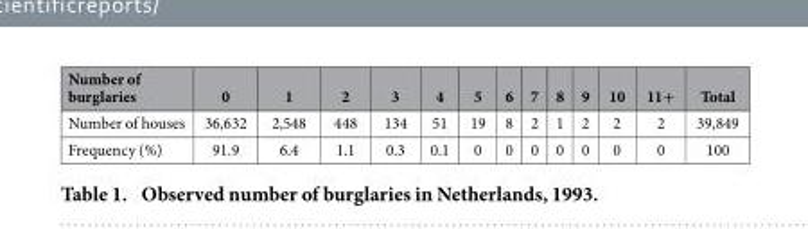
<table><thead><tr><td>Number of burglaries</td><td>0</td><td>1</td><td>2</td><td>3</td><td>4</td><td>5</td><td>6</td><td>7</td><td>8</td><td>9</td><td>10</td><td>11+</td><td>Total</td></tr></thead><tbody><tr><td>Number of houses</td><td>36,632</td><td>2,548</td><td>448</td><td>134</td><td>51</td><td>19</td><td>8</td><td>2</td><td>1</td><td>2</td><td>2</td><td>2</td><td>39,849</td></tr><tr><td>Frequency (%)</td><td>91.9</td><td>6.4</td><td>1.1</td><td>0.3</td><td>0.1</td><td>0</td><td>0</td><td>0</td><td>0</td><td>0</td><td>0</td><td>0</td><td>100</td></tr></tbody></table>